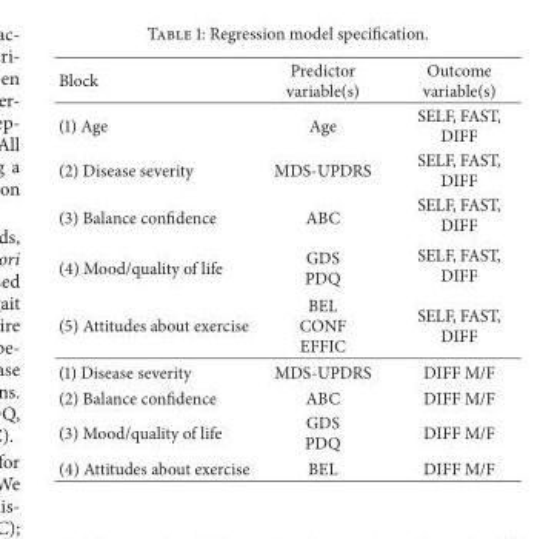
<table><thead><tr><td>Block</td><td>Predictor variable(s)</td><td>Outcome variable(s)</td></tr></thead><tbody><tr><td>(1) Age</td><td>Age</td><td>SELF, FAST, DIFF</td></tr><tr><td>(2) Disease severity</td><td>MDS-UPDRS</td><td>SELF, FAST, DIFF</td></tr><tr><td>(3) Balance confidence</td><td>ABC</td><td>SELF, FAST, DIFF</td></tr><tr><td>(4) Mood/quality of life</td><td>GDS PDQ</td><td>SELF, FAST, DIFF</td></tr><tr><td>(5) Attitudes about exercise</td><td>BEL CONF EFFIC</td><td>SELF, FAST, DIFF</td></tr><tr><td>(1) Disease severity</td><td>MDS-UPDRS</td><td>DIFF M/F</td></tr><tr><td>(2) Balance confidence</td><td>ABC</td><td>DIFF M/F</td></tr><tr><td>(3) Mood/quality of life</td><td>GDS PDQ</td><td>DIFF M/F</td></tr><tr><td>(4) Attitudes about exercise</td><td>BEL</td><td>DIFF M/F</td></tr></tbody></table>